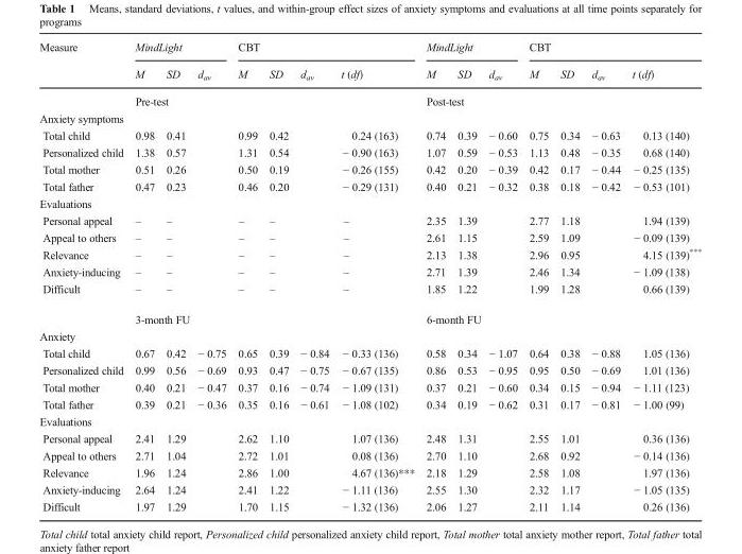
<table><thead><tr><td rowspan="2">Measure</td><td colspan="3">MindLight</td><td colspan="4">CBT</td><td colspan="3">MindLight</td><td colspan="4">CBT</td></tr><tr><td>M</td><td>SD</td><td>d<sub>av</sub></td><td>M</td><td>SD</td><td>d<sub>av</sub></td><td>t (df)</td><td>M</td><td>SD</td><td>d<sub>av</sub></td><td>M</td><td>SD</td><td>d<sub>av</sub></td><td>t (df)</td></tr></thead><tbody><tr><td></td><td colspan="7">Pre-test</td><td colspan="7">Post-test</td></tr><tr><td colspan="15">Anxiety symptoms</td></tr><tr><td>Total child</td><td>0.98</td><td>0.41</td><td></td><td>0.99</td><td>0.42</td><td></td><td>0.24 (163)</td><td>0.74</td><td>0.39</td><td>− 0.60</td><td>0.75</td><td>0.34</td><td>− 0.63</td><td>0.13 (140)</td></tr><tr><td>Personalized child</td><td>1.38</td><td>0.57</td><td></td><td>1.31</td><td>0.54</td><td></td><td>− 0.90 (163)</td><td>1.07</td><td>0.59</td><td>− 0.53</td><td>1.13</td><td>0.48</td><td>− 0.35</td><td>0.68 (140)</td></tr><tr><td>Total mother</td><td>0.51</td><td>0.26</td><td></td><td>0.50</td><td>0.19</td><td></td><td>− 0.26 (155)</td><td>0.42</td><td>0.20</td><td>− 0.39</td><td>0.42</td><td>0.17</td><td>− 0.44</td><td>− 0.25 (135)</td></tr><tr><td>Total father</td><td>0.47</td><td>0.23</td><td></td><td>0.46</td><td>0.20</td><td></td><td>− 0.29 (131)</td><td>0.40</td><td>0.21</td><td>− 0.32</td><td>0.38</td><td>0.18</td><td>− 0.42</td><td>− 0.53 (101)</td></tr><tr><td colspan="15">Evaluations</td></tr><tr><td>Personal appeal</td><td>–</td><td>–</td><td></td><td>–</td><td>–</td><td></td><td>–</td><td>2.35</td><td>1.39</td><td></td><td>2.77</td><td>1.18</td><td></td><td>1.94 (139)</td></tr><tr><td>Appeal to others</td><td>–</td><td>–</td><td></td><td>–</td><td>–</td><td></td><td>–</td><td>2.61</td><td>1.15</td><td></td><td>2.59</td><td>1.09</td><td></td><td>− 0.09 (139)</td></tr><tr><td>Relevance</td><td>–</td><td>–</td><td></td><td>–</td><td>–</td><td></td><td>–</td><td>2.13</td><td>1.38</td><td></td><td>2.96</td><td>0.95</td><td></td><td>4.15 (139)***</td></tr><tr><td>Anxiety-inducing</td><td>–</td><td>–</td><td></td><td>–</td><td>–</td><td></td><td>–</td><td>2.71</td><td>1.39</td><td></td><td>2.46</td><td>1.34</td><td></td><td>− 1.09 (138)</td></tr><tr><td rowspan="2">Difficult</td><td>–</td><td>–</td><td></td><td>–</td><td>–</td><td></td><td>–</td><td>1.85</td><td>1.22</td><td></td><td>1.99</td><td>1.28</td><td></td><td>0.66 (139)</td></tr><tr><td colspan="7">3-month FU</td><td colspan="7">6-month FU</td></tr><tr><td colspan="15">Anxiety</td></tr><tr><td>Total child</td><td>0.67</td><td>0.42</td><td>− 0.75</td><td>0.65</td><td>0.39</td><td>− 0.84</td><td>− 0.33 (136)</td><td>0.58</td><td>0.34</td><td>− 1.07</td><td>0.64</td><td>0.38</td><td>− 0.88</td><td>1.05 (136)</td></tr><tr><td>Personalized child</td><td>0.99</td><td>0.56</td><td>− 0.69</td><td>0.93</td><td>0.47</td><td>− 0.75</td><td>− 0.67 (135)</td><td>0.86</td><td>0.53</td><td>− 0.95</td><td>0.95</td><td>0.50</td><td>− 0.69</td><td>1.01 (136)</td></tr><tr><td>Total mother</td><td>0.40</td><td>0.21</td><td>− 0.47</td><td>0.37</td><td>0.16</td><td>− 0.74</td><td>− 1.09 (131)</td><td>0.37</td><td>0.21</td><td>− 0.60</td><td>0.34</td><td>0.15</td><td>− 0.94</td><td>− 1.11 (123)</td></tr><tr><td>Total father</td><td>0.39</td><td>0.21</td><td>− 0.36</td><td>0.35</td><td>0.16</td><td>− 0.61</td><td>− 1.08 (102)</td><td>0.34</td><td>0.19</td><td>− 0.62</td><td>0.31</td><td>0.17</td><td>− 0.81</td><td>− 1.00 (99)</td></tr><tr><td colspan="15">Evaluations</td></tr><tr><td>Personal appeal</td><td>2.41</td><td>1.29</td><td></td><td>2.62</td><td>1.10</td><td></td><td>1.07 (136)</td><td>2.48</td><td>1.31</td><td></td><td>2.55</td><td>1.01</td><td></td><td>0.36 (136)</td></tr><tr><td>Appeal to others</td><td>2.71</td><td>1.04</td><td></td><td>2.72</td><td>1.01</td><td></td><td>0.08 (136)</td><td>2.70</td><td>1.10</td><td></td><td>2.68</td><td>0.92</td><td></td><td>− 0.14 (136)</td></tr><tr><td>Relevance</td><td>1.96</td><td>1.24</td><td></td><td>2.86</td><td>1.00</td><td></td><td>4.67 (136)***</td><td>2.18</td><td>1.29</td><td></td><td>2.58</td><td>1.08</td><td></td><td>1.97 (136)</td></tr><tr><td>Anxiety-inducing</td><td>2.64</td><td>1.24</td><td></td><td>2.41</td><td>1.22</td><td></td><td>− 1.11 (136)</td><td>2.55</td><td>1.30</td><td></td><td>2.32</td><td>1.17</td><td></td><td>− 1.05 (135)</td></tr><tr><td>Difficult</td><td>1.97</td><td>1.29</td><td></td><td>1.70</td><td>1.15</td><td></td><td>− 1.32 (136)</td><td>2.06</td><td>1.27</td><td></td><td>2.11</td><td>1.14</td><td></td><td>0.26 (136)</td></tr></tbody></table>